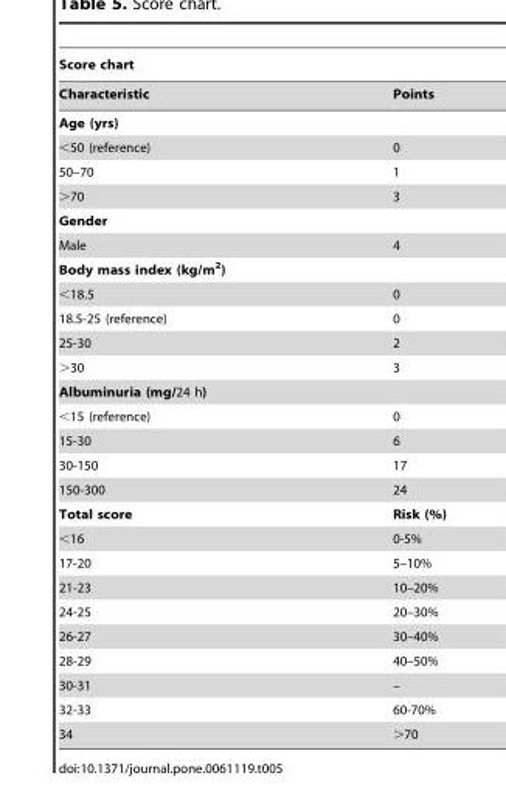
<table><thead><tr><td colspan="2">Score chart</td></tr><tr><td>Characteristic</td><td>Points</td></tr></thead><tbody><tr><td colspan="2">Age (yrs)</td></tr><tr><td>&lt;50 (reference)</td><td>0</td></tr><tr><td>50–70</td><td>1</td></tr><tr><td>&gt;70</td><td>3</td></tr><tr><td colspan="2">Gender</td></tr><tr><td>Male</td><td>4</td></tr><tr><td colspan="2">Body mass index (kg/m<sup>2</sup>)</td></tr><tr><td>&lt;18.5</td><td>0</td></tr><tr><td>18.5-25 (reference)</td><td>0</td></tr><tr><td>25-30</td><td>2</td></tr><tr><td>&gt;30</td><td>3</td></tr><tr><td colspan="2">Albuminuria (mg/24 h)</td></tr><tr><td>&lt;15 (reference)</td><td>0</td></tr><tr><td>15-30</td><td>6</td></tr><tr><td>30-150</td><td>17</td></tr><tr><td>150-300</td><td>24</td></tr><tr><td>Total score</td><td>Risk (%)</td></tr><tr><td>&lt;16</td><td>0-5%</td></tr><tr><td>17-20</td><td>5–10%</td></tr><tr><td>21-23</td><td>10–20%</td></tr><tr><td>24-25</td><td>20–30%</td></tr><tr><td>26-27</td><td>30–40%</td></tr><tr><td>28-29</td><td>40–50%</td></tr><tr><td>30-31</td><td>–</td></tr><tr><td>32-33</td><td>60-70%</td></tr><tr><td>34</td><td>&gt;70</td></tr></tbody></table>